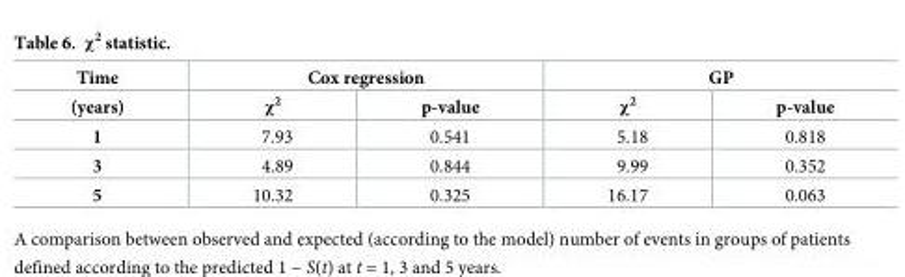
<table><thead><tr><td rowspan="2">Time (years)</td><td colspan="2">Cox regression</td><td colspan="2">GP</td></tr><tr><td>χ<sup>2</sup></td><td>p-value</td><td>χ<sup>2</sup></td><td>p-value</td></tr></thead><tbody><tr><td>1</td><td>7.93</td><td>0.541</td><td>5.18</td><td>0.818</td></tr><tr><td>3</td><td>4.89</td><td>0.844</td><td>9.99</td><td>0.352</td></tr><tr><td>5</td><td>10.32</td><td>0.325</td><td>16.17</td><td>0.063</td></tr></tbody></table>